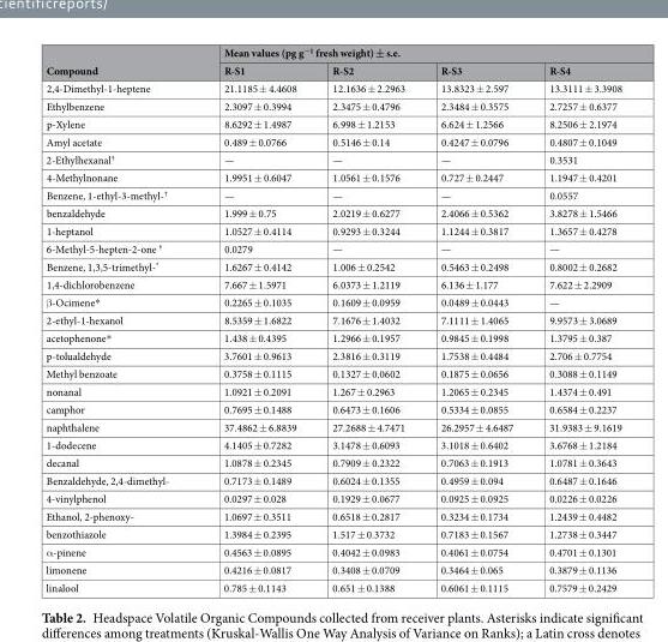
<table><thead><tr><td rowspan="2">Compound</td><td colspan="4">Mean values (pg g<sup>−1</sup> fresh weight) ± s.e.</td></tr><tr><td>R-S1</td><td>R-S2</td><td>R-S3</td><td>R-S4</td></tr></thead><tbody><tr><td>2,4-Dimethyl-1-heptene</td><td>21.1185 ± 4.4608</td><td>12.1636 ± 2.2963</td><td>13.8323 ± 2.597</td><td>13.3111 ± 3.3908</td></tr><tr><td>Ethylbenzene</td><td>2.3097 ± 0.3994</td><td>2.3475 ± 0.4796</td><td>2.3484 ± 0.3575</td><td>2.7257 ± 0.6377</td></tr><tr><td>p-Xylene</td><td>8.6292 ± 1.4987</td><td>6.998 ± 1.2153</td><td>6.624 ± 1.2566</td><td>8.2506 ± 2.1974</td></tr><tr><td>Amyl acetate</td><td>0.489 ± 0.0766</td><td>0.5146 ± 0.14</td><td>0.4247 ± 0.0796</td><td>0.4807 ± 0.1049</td></tr><tr><td>2-Ethylhexanal<sup>†</sup></td><td>—</td><td>—</td><td>—</td><td>0.3531</td></tr><tr><td>4-Methylnonane</td><td>1.9951 ± 0.6047</td><td>1.0561 ± 0.1576</td><td>0.727 ± 0.2447</td><td>1.1947 ± 0.4201</td></tr><tr><td>Benzene, 1-ethyl-3-methyl-<sup>†</sup></td><td>—</td><td>—</td><td>—</td><td>0.0557</td></tr><tr><td>benzaldehyde</td><td>1.999 ± 0.75</td><td>2.0219 ± 0.6277</td><td>2.4066 ± 0.5362</td><td>3.8278 ± 1.5466</td></tr><tr><td>1-heptanol</td><td>1.0527 ± 0.4114</td><td>0.9293 ± 0.3244</td><td>1.1244 ± 0.3817</td><td>1.3657 ± 0.4278</td></tr><tr><td>6-Methyl-5-hepten-2-one <sup>†</sup></td><td>0.0279</td><td>—</td><td>—</td><td>—</td></tr><tr><td>Benzene, 1,3,5-trimethyl-*</td><td>1.6267 ± 0.4142</td><td>1.006 ± 0.2542</td><td>0.5463 ± 0.2498</td><td>0.8002 ± 0.2682</td></tr><tr><td>1,4-dichlorobenzene</td><td>7.667 ± 1.5971</td><td>6.0373 ± 1.2119</td><td>6.136 ± 1.177</td><td>7.622 ± 2.2909</td></tr><tr><td>β-Ocimene*</td><td>0.2265 ± 0.1035</td><td>0.1609 ± 0.0959</td><td>0.0489 ± 0.0443</td><td>—</td></tr><tr><td>2-ethyl-1-hexanol</td><td>8.5359 ± 1.6822</td><td>7.1676 ± 1.4032</td><td>7.1111 ± 1.4065</td><td>9.9573 ± 3.0689</td></tr><tr><td>acetophenone*</td><td>1.438 ± 0.4395</td><td>1.2966 ± 0.1957</td><td>0.9845 ± 0.1998</td><td>1.3795 ± 0.387</td></tr><tr><td>p-tolualdehyde</td><td>3.7601 ± 0.9613</td><td>2.3816 ± 0.3119</td><td>1.7538 ± 0.4484</td><td>2.706 ± 0.7754</td></tr><tr><td>Methyl benzoate</td><td>0.3758 ± 0.1115</td><td>0.1327 ± 0.0602</td><td>0.1875 ± 0.0656</td><td>0.3088 ± 0.1149</td></tr><tr><td>nonanal</td><td>1.0921 ± 0.2091</td><td>1.267 ± 0.2963</td><td>1.2065 ± 0.2345</td><td>1.4374 ± 0.491</td></tr><tr><td>camphor</td><td>0.7695 ± 0.1488</td><td>0.6473 ± 0.1606</td><td>0.5334 ± 0.0855</td><td>0.6584 ± 0.2237</td></tr><tr><td>naphthalene</td><td>37.4862 ± 6.8839</td><td>27.2688 ± 4.7471</td><td>26.2957 ± 4.6487</td><td>31.9383 ± 9.1619</td></tr><tr><td>1-dodecene</td><td>4.1405 ± 0.7282</td><td>3.1478 ± 0.6093</td><td>3.1018 ± 0.6402</td><td>3.6768 ± 1.2184</td></tr><tr><td>decanal</td><td>1.0878 ± 0.2345</td><td>0.7909 ± 0.2322</td><td>0.7063 ± 0.1913</td><td>1.0781 ± 0.3643</td></tr><tr><td>Benzaldehyde, 2,4-dimethyl-</td><td>0.7173 ± 0.1489</td><td>0.6024 ± 0.1355</td><td>0.4959 ± 0.094</td><td>0.6487 ± 0.1646</td></tr><tr><td>4-vinylphenol</td><td>0.0297 ± 0.028</td><td>0.1929 ± 0.0677</td><td>0.0925 ± 0.0925</td><td>0.0226 ± 0.0226</td></tr><tr><td>Ethanol, 2-phenoxy-</td><td>1.0697 ± 0.3511</td><td>0.6518 ± 0.2817</td><td>0.3234 ± 0.1734</td><td>1.2439 ± 0.4482</td></tr><tr><td>benzothiazole</td><td>1.3984 ± 0.2395</td><td>1.517 ± 0.3732</td><td>0.7183 ± 0.1567</td><td>1.2738 ± 0.3447</td></tr><tr><td>α-pinene</td><td>0.4563 ± 0.0895</td><td>0.4042 ± 0.0983</td><td>0.4061 ± 0.0754</td><td>0.4701 ± 0.1301</td></tr><tr><td>limonene</td><td>0.4216 ± 0.0817</td><td>0.3408 ± 0.0709</td><td>0.3464 ± 0.065</td><td>0.3879 ± 0.1136</td></tr><tr><td>linalool</td><td>0.785 ± 0.1143</td><td>0.651 ± 0.1388</td><td>0.6061 ± 0.1115</td><td>0.7579 ± 0.2429</td></tr></tbody></table>